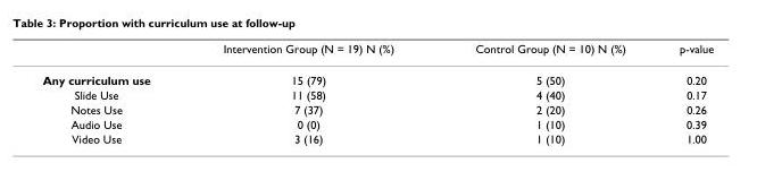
<table><thead><tr><td></td><td>Intervention Group (N = 19) N (%)</td><td>Control Group (N = 10) N (%)</td><td>p-value</td></tr></thead><tbody><tr><td>Any curriculum use</td><td>15 (79)</td><td>5 (50)</td><td>0.20</td></tr><tr><td>Slide Use</td><td>11 (58)</td><td>4 (40)</td><td>0.17</td></tr><tr><td>Notes Use</td><td>7 (37)</td><td>2 (20)</td><td>0.26</td></tr><tr><td>Audio Use</td><td>0 (0)</td><td>1 (10)</td><td>0.39</td></tr><tr><td>Video Use</td><td>3 (16)</td><td>1 (10)</td><td>1.00</td></tr></tbody></table>